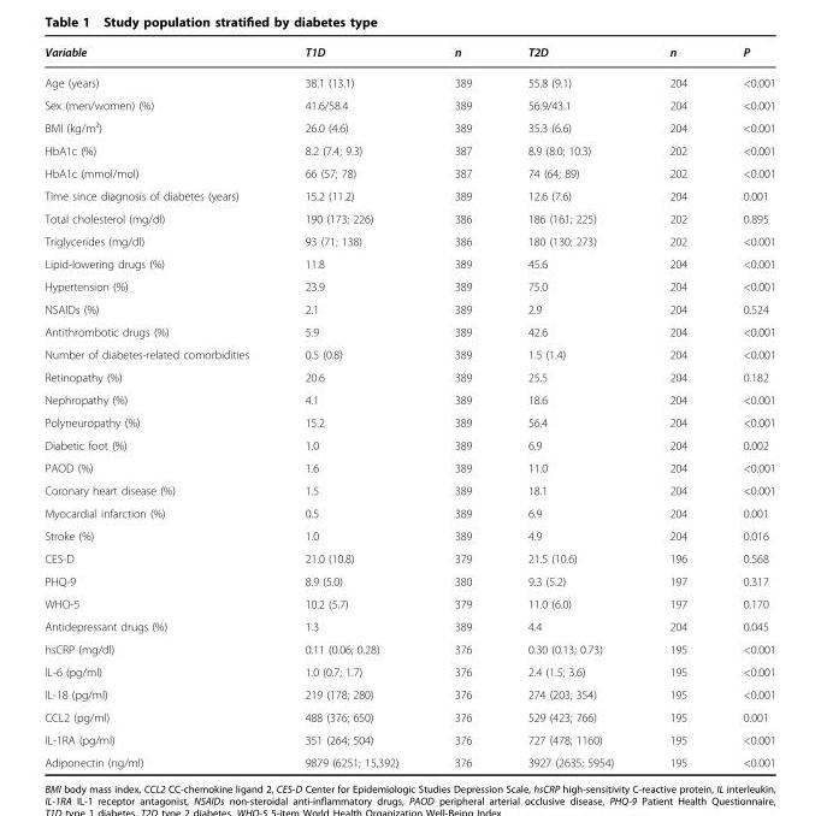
<table><thead><tr><td>Variable</td><td>T1D</td><td>n</td><td>T2D</td><td>n</td><td>P</td></tr></thead><tbody><tr><td>Age (years)</td><td>38.1 (13.1)</td><td>389</td><td>55.8 (9.1)</td><td>204</td><td>&lt;0.001</td></tr><tr><td>Sex (men/women) (%)</td><td>41.6/58.4</td><td>389</td><td>56.9/43.1</td><td>204</td><td>&lt;0.001</td></tr><tr><td>BMI (kg/m²)</td><td>26.0 (4.6)</td><td>389</td><td>35.3 (6.6)</td><td>204</td><td>&lt;0.001</td></tr><tr><td>HbA1c (%)</td><td>8.2 (7.4; 9.3)</td><td>387</td><td>8.9 (8.0; 10.3)</td><td>202</td><td>&lt;0.001</td></tr><tr><td>HbA1c (mmol/mol)</td><td>66 (57; 78)</td><td>387</td><td>74 (64; 89)</td><td>202</td><td>&lt;0.001</td></tr><tr><td>Time since diagnosis of diabetes (years)</td><td>15.2 (11.2)</td><td>389</td><td>12.6 (7.6)</td><td>204</td><td>0.001</td></tr><tr><td>Total cholesterol (mg/dl)</td><td>190 (173; 226)</td><td>386</td><td>186 (161; 225)</td><td>202</td><td>0.895</td></tr><tr><td>Triglycerides (mg/dl)</td><td>93 (71; 138)</td><td>386</td><td>180 (130; 273)</td><td>202</td><td>&lt;0.001</td></tr><tr><td>Lipid-lowering drugs (%)</td><td>11.8</td><td>389</td><td>45.6</td><td>204</td><td>&lt;0.001</td></tr><tr><td>Hypertension (%)</td><td>23.9</td><td>389</td><td>75.0</td><td>204</td><td>&lt;0.001</td></tr><tr><td>NSAIDs (%)</td><td>2.1</td><td>389</td><td>2.9</td><td>204</td><td>0.524</td></tr><tr><td>Antithrombotic drugs (%)</td><td>5.9</td><td>389</td><td>42.6</td><td>204</td><td>&lt;0.001</td></tr><tr><td>Number of diabetes-related comorbidities</td><td>0.5 (0.8)</td><td>389</td><td>1.5 (1.4)</td><td>204</td><td>&lt;0.001</td></tr><tr><td>Retinopathy (%)</td><td>20.6</td><td>389</td><td>25.5</td><td>204</td><td>0.182</td></tr><tr><td>Nephropathy (%)</td><td>4.1</td><td>389</td><td>18.6</td><td>204</td><td>&lt;0.001</td></tr><tr><td>Polyneuropathy (%)</td><td>15.2</td><td>389</td><td>56.4</td><td>204</td><td>&lt;0.001</td></tr><tr><td>Diabetic foot (%)</td><td>1.0</td><td>389</td><td>6.9</td><td>204</td><td>0.002</td></tr><tr><td>PAOD (%)</td><td>1.6</td><td>389</td><td>11.0</td><td>204</td><td>&lt;0.001</td></tr><tr><td>Coronary heart disease (%)</td><td>1.5</td><td>389</td><td>18.1</td><td>204</td><td>&lt;0.001</td></tr><tr><td>Myocardial infarction (%)</td><td>0.5</td><td>389</td><td>6.9</td><td>204</td><td>0.001</td></tr><tr><td>Stroke (%)</td><td>1.0</td><td>389</td><td>4.9</td><td>204</td><td>0.016</td></tr><tr><td>CES-D</td><td>21.0 (10.8)</td><td>379</td><td>21.5 (10.6)</td><td>196</td><td>0.568</td></tr><tr><td>PHQ-9</td><td>8.9 (5.0)</td><td>380</td><td>9.3 (5.2)</td><td>197</td><td>0.317</td></tr><tr><td>WHO-5</td><td>10.2 (5.7)</td><td>379</td><td>11.0 (6.0)</td><td>197</td><td>0.170</td></tr><tr><td>Antidepressant drugs (%)</td><td>1.3</td><td>389</td><td>4.4</td><td>204</td><td>0.045</td></tr><tr><td>hsCRP (mg/dl)</td><td>0.11 (0.06; 0.28)</td><td>376</td><td>0.30 (0.13; 0.73)</td><td>195</td><td>&lt;0.001</td></tr><tr><td>IL-6 (pg/ml)</td><td>1.0 (0.7; 1.7)</td><td>376</td><td>2.4 (1.5; 3.6)</td><td>195</td><td>&lt;0.001</td></tr><tr><td>IL-18 (pg/ml)</td><td>219 (178; 280)</td><td>376</td><td>274 (203; 354)</td><td>195</td><td>&lt;0.001</td></tr><tr><td>CCL2 (pg/ml)</td><td>488 (376; 650)</td><td>376</td><td>529 (423; 766)</td><td>195</td><td>0.001</td></tr><tr><td>IL-1RA (pg/ml)</td><td>351 (264; 504)</td><td>376</td><td>727 (478; 1160)</td><td>195</td><td>&lt;0.001</td></tr><tr><td>Adiponectin (ng/ml)</td><td>9879 (6251; 15,392)</td><td>376</td><td>3927 (2635; 5954)</td><td>195</td><td>&lt;0.001</td></tr></tbody></table>